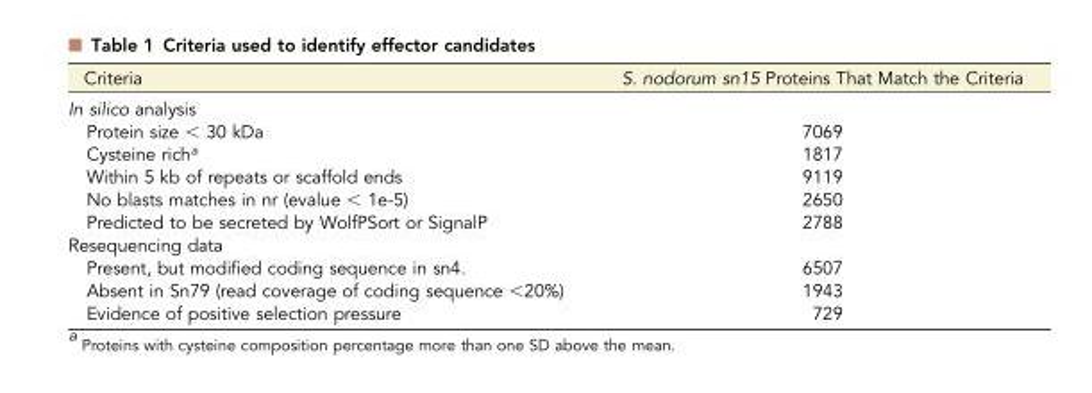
<table><thead><tr><td>Criteria</td><td>S. nodorum sn15 Proteins That Match the Criteria</td></tr></thead><tbody><tr><td colspan="2">In silico analysis</td></tr><tr><td>Protein size &lt; 30 kDa</td><td>7069</td></tr><tr><td>Cysteine rich<sup>a</sup></td><td>1817</td></tr><tr><td>Within 5 kb of repeats or scaffold ends</td><td>9119</td></tr><tr><td>No blasts matches in nr (evalue &lt; 1e-5)</td><td>2650</td></tr><tr><td>Predicted to be secreted by WolfPSort or SignalP</td><td>2788</td></tr><tr><td colspan="2">Resequencing data</td></tr><tr><td>Present, but modified coding sequence in sn4.</td><td>6507</td></tr><tr><td>Absent in Sn79 (read coverage of coding sequence &lt;20%)</td><td>1943</td></tr><tr><td>Evidence of positive selection pressure</td><td>729</td></tr></tbody></table>